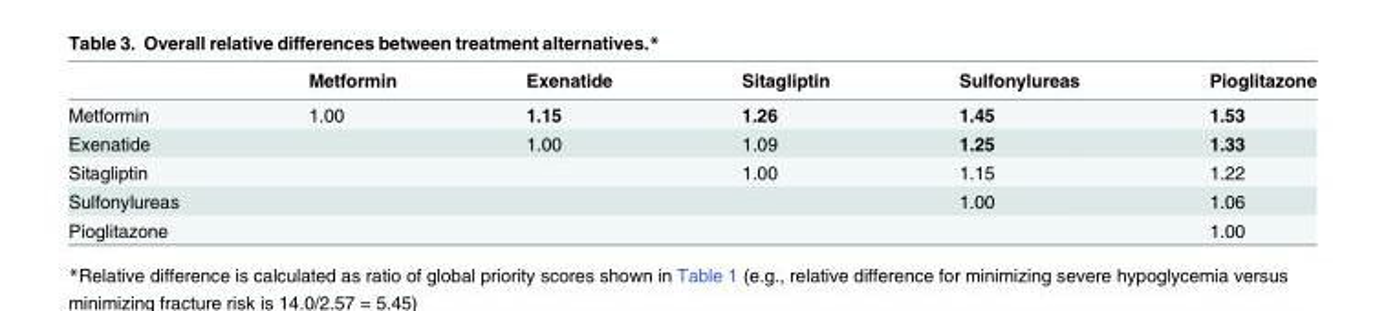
<table><thead><tr><td></td><td>Metformin</td><td>Exenatide</td><td>Sitagliptin</td><td>Sulfonylureas</td><td>Pioglitazone</td></tr></thead><tbody><tr><td>Metformin</td><td>1.00</td><td>1.15</td><td>1.26</td><td>1.45</td><td>1.53</td></tr><tr><td>Exenatide</td><td></td><td>1.00</td><td>1.09</td><td>1.25</td><td>1.33</td></tr><tr><td>Sitagliptin</td><td></td><td></td><td>1.00</td><td>1.15</td><td>1.22</td></tr><tr><td>Sulfonylureas</td><td></td><td></td><td></td><td>1.00</td><td>1.06</td></tr><tr><td>Pioglitazone</td><td></td><td></td><td></td><td></td><td>1.00</td></tr></tbody></table>